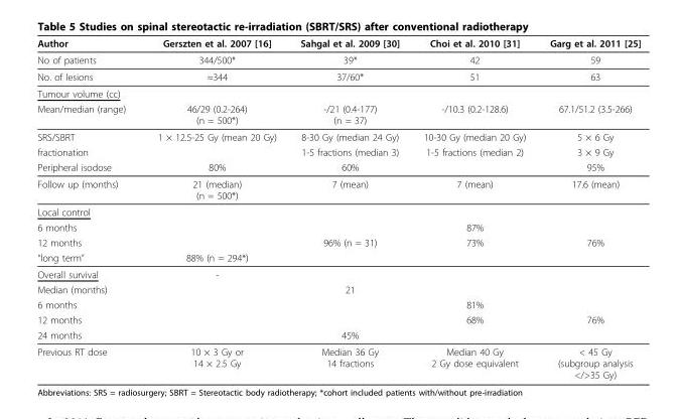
<table><thead><tr><td>Author</td><td>Gerszten et al. 2007 [16]</td><td>Sahgal et al. 2009 [30]</td><td>Choi et al. 2010 [31]</td><td>Garg et al. 2011 [25]</td></tr></thead><tbody><tr><td>No of patients</td><td>344/500*</td><td>39*</td><td>42</td><td>59</td></tr><tr><td>No. of lesions</td><td>≈344</td><td>37/60*</td><td>51</td><td>63</td></tr><tr><td colspan="5">Tumour volume (cc)</td></tr><tr><td>Mean/median (range)</td><td>46/29 (0.2-264) (n = 500*)</td><td>-/21 (0.4-177) (n = 37)</td><td>-/10.3 (0.2-128.6)</td><td>67.1/51.2 (3.5-266)</td></tr><tr><td>SRS/SBRT</td><td>1 × 12.5-25 Gy (mean 20 Gy)</td><td>8-30 Gy (median 24 Gy)</td><td>10-30 Gy (median 20 Gy)</td><td>5 × 6 Gy</td></tr><tr><td>fractionation</td><td></td><td>1-5 fractions (median 3)</td><td>1-5 fractions (median 2)</td><td>3 × 9 Gy</td></tr><tr><td>Peripheral isodose</td><td>80%</td><td>60%</td><td></td><td>95%</td></tr><tr><td>Follow up (months)</td><td>21 (median) (n = 500*)</td><td>7 (mean)</td><td>7 (mean)</td><td>17.6 (mean)</td></tr><tr><td colspan="5">Local control</td></tr><tr><td>6 months</td><td></td><td></td><td>87%</td><td></td></tr><tr><td>12 months</td><td></td><td>96% (n = 31)</td><td>73%</td><td>76%</td></tr><tr><td>“long term”</td><td>88% (n = 294*)</td><td></td><td></td><td></td></tr><tr><td>Overall survival</td><td>-</td><td></td><td></td><td></td></tr><tr><td>Median (months)</td><td></td><td>21</td><td></td><td></td></tr><tr><td>6 months</td><td></td><td></td><td>81%</td><td></td></tr><tr><td>12 months</td><td></td><td></td><td>68%</td><td>76%</td></tr><tr><td>24 months</td><td></td><td>45%</td><td></td><td></td></tr><tr><td>Previous RT dose</td><td>10 × 3 Gy or 14 × 2.5 Gy</td><td>Median 36 Gy 14 fractions</td><td>Median 40 Gy 2 Gy dose equivalent</td><td>&lt; 45 Gy (subgroup analysis &lt;/&gt;35 Gy)</td></tr></tbody></table>